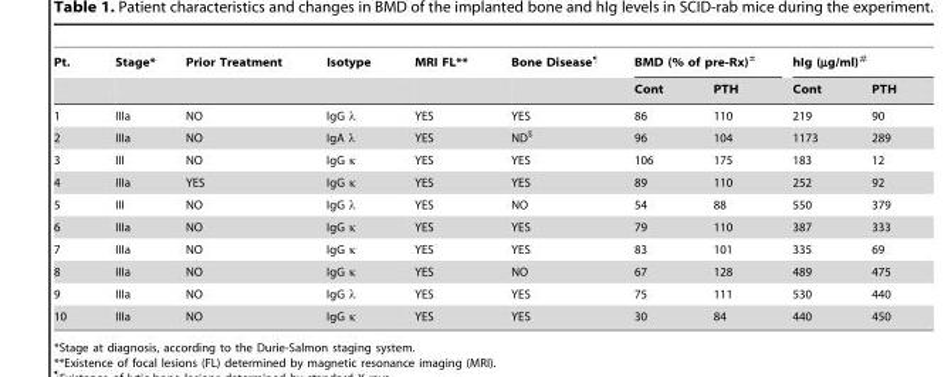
<table><thead><tr><td rowspan="2">Pt.</td><td rowspan="2">Stage*</td><td rowspan="2">Prior Treatment</td><td rowspan="2">Isotype</td><td rowspan="2">MRI FL**</td><td rowspan="2">Bone Disease¶</td><td colspan="2">BMD (% of pre-Rx)±</td><td colspan="2">hIg (µg/ml)#</td></tr><tr><td>Cont</td><td>PTH</td><td>Cont</td><td>PTH</td></tr></thead><tbody><tr><td>1</td><td>IIIa</td><td>NO</td><td>IgG λ</td><td>YES</td><td>YES</td><td>86</td><td>110</td><td>219</td><td>90</td></tr><tr><td>2</td><td>IIIa</td><td>NO</td><td>IgA λ</td><td>YES</td><td>ND$</td><td>96</td><td>104</td><td>1173</td><td>289</td></tr><tr><td>3</td><td>III</td><td>NO</td><td>IgG κ</td><td>YES</td><td>YES</td><td>106</td><td>175</td><td>183</td><td>12</td></tr><tr><td>4</td><td>IIIa</td><td>YES</td><td>IgG κ</td><td>YES</td><td>YES</td><td>89</td><td>110</td><td>252</td><td>92</td></tr><tr><td>5</td><td>III</td><td>NO</td><td>IgG λ</td><td>YES</td><td>NO</td><td>54</td><td>88</td><td>550</td><td>379</td></tr><tr><td>6</td><td>IIIa</td><td>NO</td><td>IgG κ</td><td>YES</td><td>YES</td><td>79</td><td>110</td><td>387</td><td>333</td></tr><tr><td>7</td><td>IIIa</td><td>NO</td><td>IgG κ</td><td>YES</td><td>YES</td><td>83</td><td>101</td><td>335</td><td>69</td></tr><tr><td>8</td><td>IIIa</td><td>NO</td><td>IgG κ</td><td>YES</td><td>NO</td><td>67</td><td>128</td><td>489</td><td>475</td></tr><tr><td>9</td><td>IIIa</td><td>NO</td><td>IgG λ</td><td>YES</td><td>YES</td><td>75</td><td>111</td><td>530</td><td>440</td></tr><tr><td>10</td><td>IIIa</td><td>NO</td><td>IgG κ</td><td>YES</td><td>YES</td><td>30</td><td>84</td><td>440</td><td>450</td></tr></tbody></table>